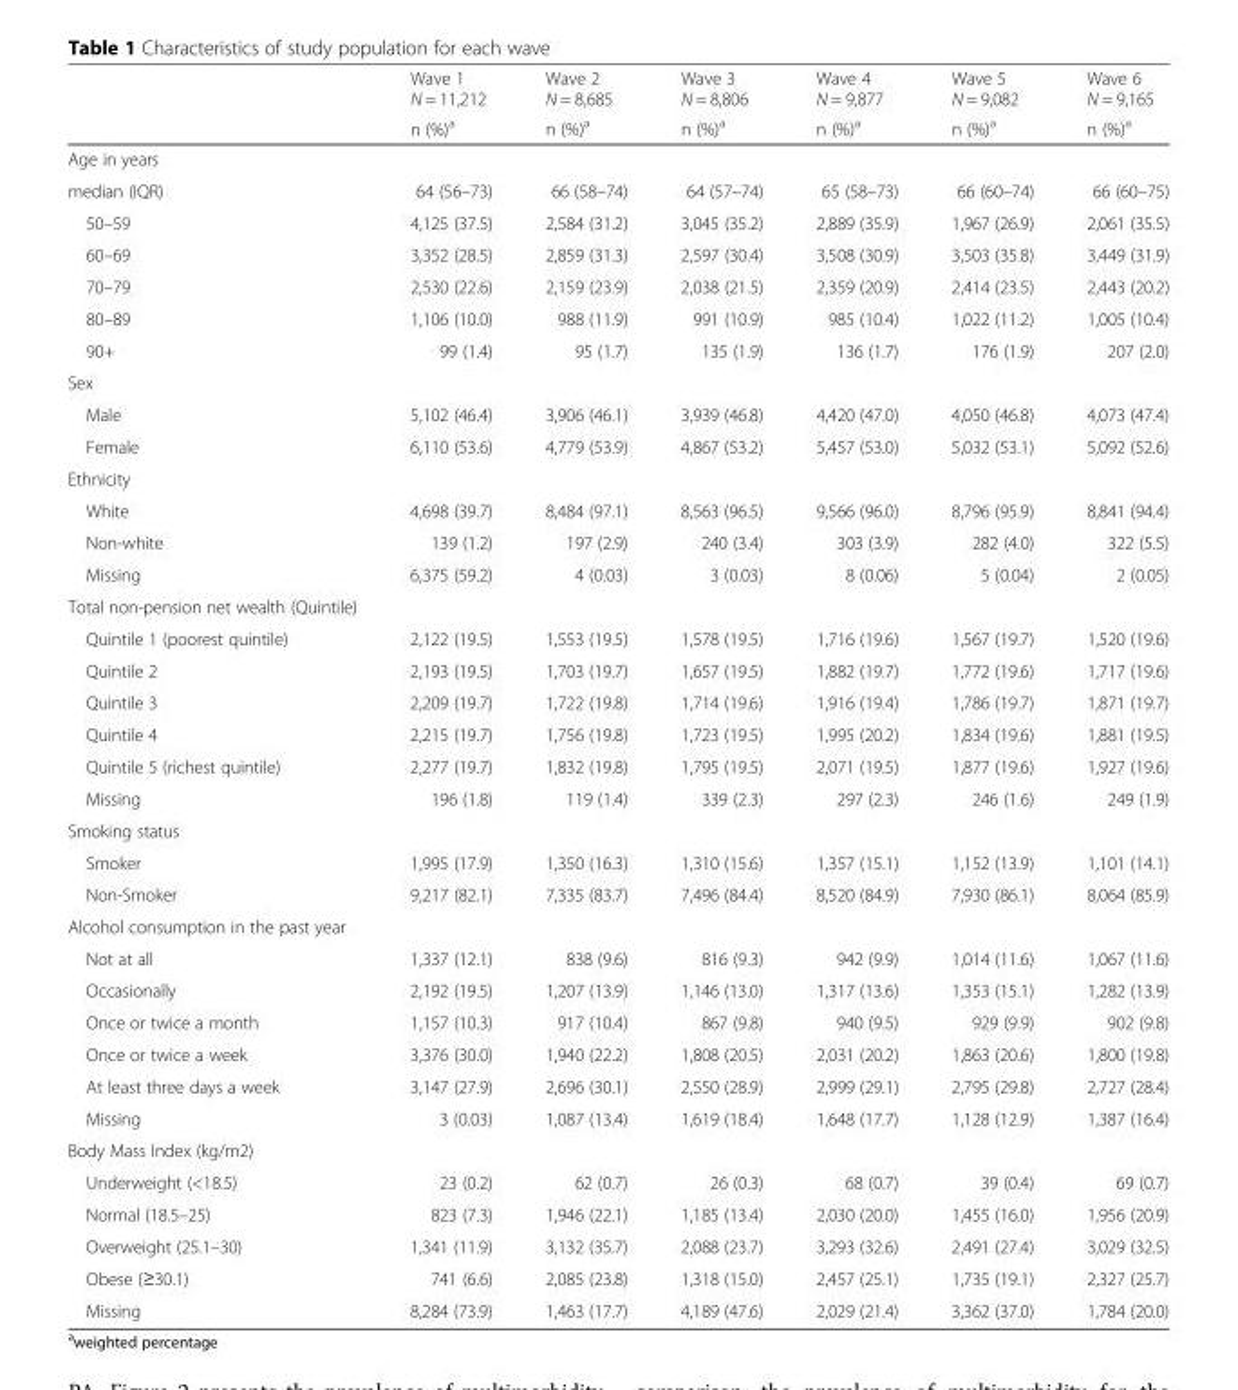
<table><thead><tr><td rowspan="2"></td><td rowspan="2">Wave 1 N = 11,212 n (%)<sup>a</sup></td><td rowspan="2">Wave 2 N = 8,685 n (%)<sup>a</sup></td><td rowspan="2">Wave 3 N = 8,806 n (%)<sup>a</sup></td><td rowspan="2">Wave 4 N = 9,877 n (%)<sup>a</sup></td><td rowspan="2">Wave 5 N = 9,082 n (%)<sup>a</sup></td><td rowspan="2">Wave 6 N = 9,165 n (%)<sup>a</sup></td></tr><tr></tr></thead><tbody><tr><td colspan="7">Age in years</td></tr><tr><td>median (IQR)</td><td>64 (56–73)</td><td>66 (58–74)</td><td>64 (57–74)</td><td>65 (58–73)</td><td>66 (60–74)</td><td>66 (60–75)</td></tr><tr><td>50–59</td><td>4,125 (37.5)</td><td>2,584 (31.2)</td><td>3,045 (35.2)</td><td>2,889 (35.9)</td><td>1,967 (26.9)</td><td>2,061 (35.5)</td></tr><tr><td>60–69</td><td>3,352 (28.5)</td><td>2,859 (31.3)</td><td>2,597 (30.4)</td><td>3,508 (30.9)</td><td>3,503 (35.8)</td><td>3,449 (31.9)</td></tr><tr><td>70–79</td><td>2,530 (22.6)</td><td>2,159 (23.9)</td><td>2,038 (21.5)</td><td>2,359 (20.9)</td><td>2,414 (23.5)</td><td>2,443 (20.2)</td></tr><tr><td>80–89</td><td>1,106 (10.0)</td><td>988 (11.9)</td><td>991 (10.9)</td><td>985 (10.4)</td><td>1,022 (11.2)</td><td>1,005 (10.4)</td></tr><tr><td>90+</td><td>99 (1.4)</td><td>95 (1.7)</td><td>135 (1.9)</td><td>136 (1.7)</td><td>176 (1.9)</td><td>207 (2.0)</td></tr><tr><td colspan="7">Sex</td></tr><tr><td>Male</td><td>5,102 (46.4)</td><td>3,906 (46.1)</td><td>3,939 (46.8)</td><td>4,420 (47.0)</td><td>4,050 (46.8)</td><td>4,073 (47.4)</td></tr><tr><td>Female</td><td>6,110 (53.6)</td><td>4,779 (53.9)</td><td>4,867 (53.2)</td><td>5,457 (53.0)</td><td>5,032 (53.1)</td><td>5,092 (52.6)</td></tr><tr><td colspan="7">Ethnicity</td></tr><tr><td>White</td><td>4,698 (39.7)</td><td>8,484 (97.1)</td><td>8,563 (96.5)</td><td>9,566 (96.0)</td><td>8,796 (95.9)</td><td>8,841 (94.4)</td></tr><tr><td>Non-white</td><td>139 (1.2)</td><td>197 (2.9)</td><td>240 (3.4)</td><td>303 (3.9)</td><td>282 (4.0)</td><td>322 (5.5)</td></tr><tr><td>Missing</td><td>6,375 (59.2)</td><td>4 (0.03)</td><td>3 (0.03)</td><td>8 (0.06)</td><td>5 (0.04)</td><td>2 (0.05)</td></tr><tr><td colspan="7">Total non-pension net wealth (Quintile)</td></tr><tr><td>Quintile 1 (poorest quintile)</td><td>2,122 (19.5)</td><td>1,553 (19.5)</td><td>1,578 (19.5)</td><td>1,716 (19.6)</td><td>1,567 (19.7)</td><td>1,520 (19.6)</td></tr><tr><td>Quintile 2</td><td>2,193 (19.5)</td><td>1,703 (19.7)</td><td>1,657 (19.5)</td><td>1,882 (19.7)</td><td>1,772 (19.6)</td><td>1,717 (19.6)</td></tr><tr><td>Quintile 3</td><td>2,209 (19.7)</td><td>1,722 (19.8)</td><td>1,714 (19.6)</td><td>1,916 (19.4)</td><td>1,786 (19.7)</td><td>1,871 (19.7)</td></tr><tr><td>Quintile 4</td><td>2,215 (19.7)</td><td>1,756 (19.8)</td><td>1,723 (19.5)</td><td>1,995 (20.2)</td><td>1,834 (19.6)</td><td>1,881 (19.5)</td></tr><tr><td>Quintile 5 (richest quintile)</td><td>2,277 (19.7)</td><td>1,832 (19.8)</td><td>1,795 (19.5)</td><td>2,071 (19.5)</td><td>1,877 (19.6)</td><td>1,927 (19.6)</td></tr><tr><td>Missing</td><td>196 (1.8)</td><td>119 (1.4)</td><td>339 (2.3)</td><td>297 (2.3)</td><td>246 (1.6)</td><td>249 (1.9)</td></tr><tr><td colspan="7">Smoking status</td></tr><tr><td>Smoker</td><td>1,995 (17.9)</td><td>1,350 (16.3)</td><td>1,310 (15.6)</td><td>1,357 (15.1)</td><td>1,152 (13.9)</td><td>1,101 (14.1)</td></tr><tr><td>Non-Smoker</td><td>9,217 (82.1)</td><td>7,335 (83.7)</td><td>7,496 (84.4)</td><td>8,520 (84.9)</td><td>7,930 (86.1)</td><td>8,064 (85.9)</td></tr><tr><td colspan="7">Alcohol consumption in the past year</td></tr><tr><td>Not at all</td><td>1,337 (12.1)</td><td>838 (9.6)</td><td>816 (9.3)</td><td>942 (9.9)</td><td>1,014 (11.6)</td><td>1,067 (11.6)</td></tr><tr><td>Occasionally</td><td>2,192 (19.5)</td><td>1,207 (13.9)</td><td>1,146 (13.0)</td><td>1,317 (13.6)</td><td>1,353 (15.1)</td><td>1,282 (13.9)</td></tr><tr><td>Once or twice a month</td><td>1,157 (10.3)</td><td>917 (10.4)</td><td>867 (9.8)</td><td>940 (9.5)</td><td>929 (9.9)</td><td>902 (9.8)</td></tr><tr><td>Once or twice a week</td><td>3,376 (30.0)</td><td>1,940 (22.2)</td><td>1,808 (20.5)</td><td>2,031 (20.2)</td><td>1,863 (20.6)</td><td>1,800 (19.8)</td></tr><tr><td>At least three days a week</td><td>3,147 (27.9)</td><td>2,696 (30.1)</td><td>2,550 (28.9)</td><td>2,999 (29.1)</td><td>2,795 (29.8)</td><td>2,727 (28.4)</td></tr><tr><td>Missing</td><td>3 (0.03)</td><td>1,087 (13.4)</td><td>1,619 (18.4)</td><td>1,648 (17.7)</td><td>1,128 (12.9)</td><td>1,387 (16.4)</td></tr><tr><td colspan="7">Body Mass Index (kg/m2)</td></tr><tr><td>Underweight (&lt;18.5)</td><td>23 (0.2)</td><td>62 (0.7)</td><td>26 (0.3)</td><td>68 (0.7)</td><td>39 (0.4)</td><td>69 (0.7)</td></tr><tr><td>Normal (18.5–25)</td><td>823 (7.3)</td><td>1,946 (22.1)</td><td>1,185 (13.4)</td><td>2,030 (20.0)</td><td>1,455 (16.0)</td><td>1,956 (20.9)</td></tr><tr><td>Overweight (25.1–30)</td><td>1,341 (11.9)</td><td>3,132 (35.7)</td><td>2,088 (23.7)</td><td>3,293 (32.6)</td><td>2,491 (27.4)</td><td>3,029 (32.5)</td></tr><tr><td>Obese (≥30.1)</td><td>741 (6.6)</td><td>2,085 (23.8)</td><td>1,318 (15.0)</td><td>2,457 (25.1)</td><td>1,735 (19.1)</td><td>2,327 (25.7)</td></tr><tr><td>Missing</td><td>8,284 (73.9)</td><td>1,463 (17.7)</td><td>4,189 (47.6)</td><td>2,029 (21.4)</td><td>3,362 (37.0)</td><td>1,784 (20.0)</td></tr></tbody></table>